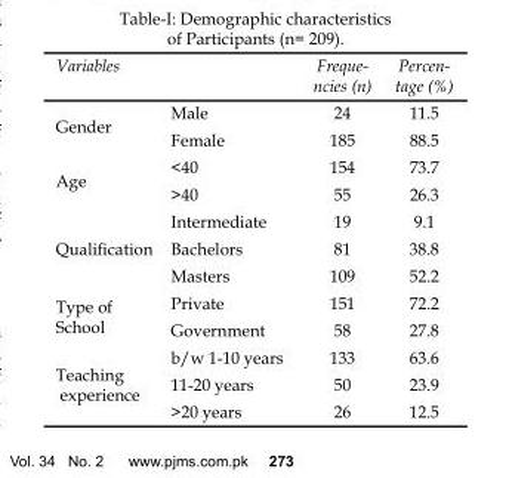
<table><thead><tr><td>Variables</td><td></td><td>Freque- ncies (n)</td><td>Percen- tage (%)</td></tr></thead><tbody><tr><td rowspan="2">Gender</td><td>Male</td><td>24</td><td>11.5</td></tr><tr><td>Female</td><td>185</td><td>88.5</td></tr><tr><td rowspan="2">Age</td><td>&lt;40</td><td>154</td><td>73.7</td></tr><tr><td>&gt;40</td><td>55</td><td>26.3</td></tr><tr><td rowspan="3">Qualification</td><td>Intermediate</td><td>19</td><td>9.1</td></tr><tr><td>Bachelors</td><td>81</td><td>38.8</td></tr><tr><td>Masters</td><td>109</td><td>52.2</td></tr><tr><td rowspan="2">Type of School</td><td>Private</td><td>151</td><td>72.2</td></tr><tr><td>Government</td><td>58</td><td>27.8</td></tr><tr><td rowspan="3">Teaching experience</td><td>b/w 1-10 years</td><td>133</td><td>63.6</td></tr><tr><td>11-20 years</td><td>50</td><td>23.9</td></tr><tr><td>&gt;20 years</td><td>26</td><td>12.5</td></tr></tbody></table>